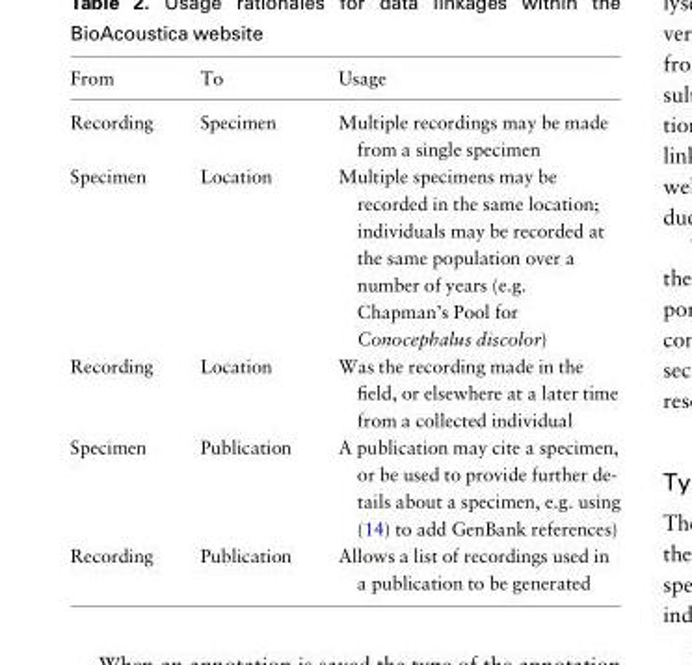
<table><thead><tr><td>From</td><td>To</td><td>Usage</td></tr></thead><tbody><tr><td>Recording</td><td>Specimen</td><td>Multiple recordings may be made from a single specimen</td></tr><tr><td>Specimen</td><td>Location</td><td>Multiple specimens may be recorded in the same location; individuals may be recorded at the same population over a number of years (e.g. Chapman’s Pool for Conocephalus discolor)</td></tr><tr><td>Recording</td><td>Location</td><td>Was the recording made in the field, or elsewhere at a later time from a collected individual</td></tr><tr><td>Specimen</td><td>Publication</td><td>A publication may cite a specimen, or be used to provide further de- tails about a specimen, e.g. using (14) to add GenBank references)</td></tr><tr><td>Recording</td><td>Publication</td><td>Allows a list of recordings used in a publication to be generated</td></tr></tbody></table>